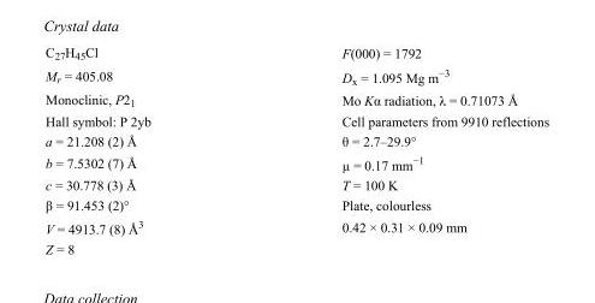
<table><tbody><tr><td>C<sub>27</sub>H<sub>45</sub>Cl</td><td>F(000) = 1792</td></tr><tr><td>M<sub>r</sub> = 405.08</td><td>D<sub>x</sub> = 1.095 Mg m<sup>−3</sup></td></tr><tr><td>Monoclinic, P2<sub>1</sub></td><td>Mo Kα radiation, λ = 0.71073 Å</td></tr><tr><td>Hall symbol: P 2yb</td><td>Cell parameters from 9910 reflections</td></tr><tr><td>a = 21.208 (2) Å</td><td>θ = 2.7–29.9°</td></tr><tr><td>b = 7.5302 (7) Å</td><td>µ = 0.17 mm<sup>−1</sup></td></tr><tr><td>c = 30.778 (3) Å</td><td>T = 100 K</td></tr><tr><td>β = 91.453 (2)°</td><td>Plate, colourless</td></tr><tr><td>V = 4913.7 (8) Å<sup>3</sup></td><td>0.42 × 0.31 × 0.09 mm</td></tr><tr><td>Z = 8</td><td></td></tr></tbody></table>